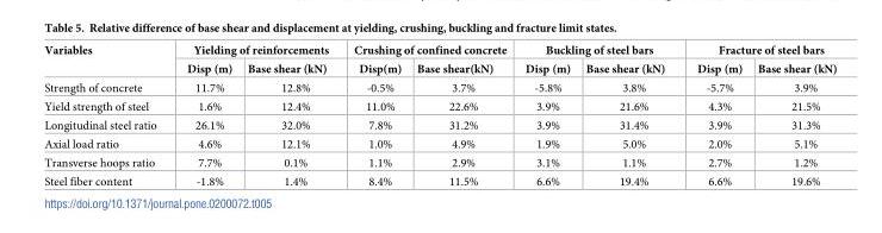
<table><thead><tr><td rowspan="2">Variables</td><td colspan="2">Yielding of reinforcements</td><td colspan="2">Crushing of confined concrete</td><td colspan="2">Buckling of steel bars</td><td colspan="2">Fracture of steel bars</td></tr><tr><td>Disp (m)</td><td>Base shear (kN)</td><td>Disp(m)</td><td>Base shear(kN)</td><td>Disp (m)</td><td>Base shear (kN)</td><td>Disp (m)</td><td>Base shear (kN)</td></tr></thead><tbody><tr><td>Strength of concrete</td><td>11.7%</td><td>12.8%</td><td>-0.5%</td><td>3.7%</td><td>-5.8%</td><td>3.8%</td><td>-5.7%</td><td>3.9%</td></tr><tr><td>Yield strength of steel</td><td>1.6%</td><td>12.4%</td><td>11.0%</td><td>22.6%</td><td>3.9%</td><td>21.6%</td><td>4.3%</td><td>21.5%</td></tr><tr><td>Longitudinal steel ratio</td><td>26.1%</td><td>32.0%</td><td>7.8%</td><td>31.2%</td><td>3.9%</td><td>31.4%</td><td>3.9%</td><td>31.3%</td></tr><tr><td>Axial load ratio</td><td>4.6%</td><td>12.1%</td><td>1.0%</td><td>4.9%</td><td>1.9%</td><td>5.0%</td><td>2.0%</td><td>5.1%</td></tr><tr><td>Transverse hoops ratio</td><td>7.7%</td><td>0.1%</td><td>1.1%</td><td>2.9%</td><td>3.1%</td><td>1.1%</td><td>2.7%</td><td>1.2%</td></tr><tr><td>Steel fiber content</td><td>-1.8%</td><td>1.4%</td><td>8.4%</td><td>11.5%</td><td>6.6%</td><td>19.4%</td><td>6.6%</td><td>19.6%</td></tr></tbody></table>